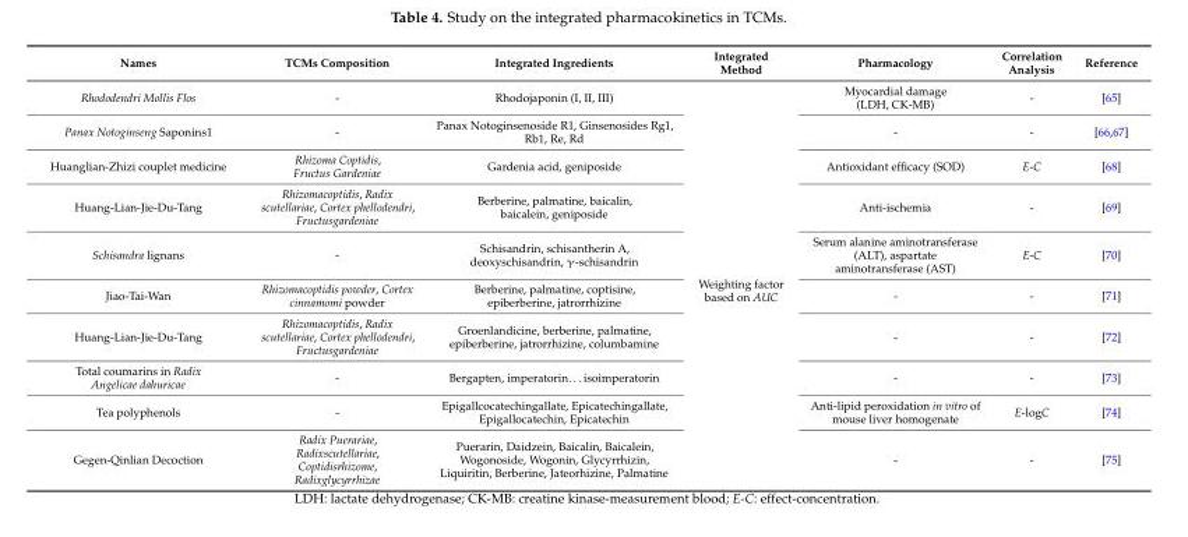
<table><thead><tr><td>Names</td><td>TCMs Composition</td><td>Integrated Ingredients</td><td>Integrated Method</td><td>Pharmacology</td><td>Correlation Analysis</td><td>Reference</td></tr></thead><tbody><tr><td>Rhododendri Mollis Flos</td><td>-</td><td>Rhodojaponin (I, II, III)</td><td rowspan="10">Weighting factor based on AUC</td><td>Myocardial damage (LDH, CK-MB)</td><td>-</td><td>[65]</td></tr><tr><td>Panax Notoginseng Saponins1</td><td>-</td><td>Panax Notoginsenoside R1, Ginsenosides Rg1, Rb1, Re, Rd</td><td>-</td><td>-</td><td>[66,67]</td></tr><tr><td>Huanglian-Zhizi couplet medicine</td><td>Rhizoma Coptidis, Fructus Gardeniae</td><td>Gardenia acid, geniposide</td><td>Antioxidant efficacy (SOD)</td><td>E-C</td><td>[68]</td></tr><tr><td>Huang-Lian-Jie-Du-Tang</td><td>Rhizomacoptidis, Radix scutellariae, Cortex phellodendri, Fructusgardeniae</td><td>Berberine, palmatine, baicalin, baicalein, geniposide</td><td>Anti-ischemia</td><td>-</td><td>[69]</td></tr><tr><td>Schisandra lignans</td><td>-</td><td>Schisandrin, schisantherin A, deoxyschisandrin, γ-schisandrin</td><td>Serum alanine aminotransferase (ALT), aspartate aminotransferase (AST)</td><td>E-C</td><td>[70]</td></tr><tr><td>Jiao-Tai-Wan</td><td>Rhizomacoptidis powder, Cortex cinnamomi powder</td><td>Berberine, palmatine, coptisine, epiberberine, jatrorrhizine</td><td>-</td><td>-</td><td>[71]</td></tr><tr><td>Huang-Lian-Jie-Du-Tang</td><td>Rhizomacoptidis, Radix scutellariae, Cortex phellodendri, Fructusgardeniae</td><td>Groenlandicine, berberine, palmatine, epiberberine, jatrorrhizine, columbamine</td><td>-</td><td>-</td><td>[72]</td></tr><tr><td>Total coumarins in Radix Angelicae dahuricae</td><td>-</td><td>Bergapten, imperatorin. . . isoimperatorin</td><td>-</td><td>-</td><td>[73]</td></tr><tr><td>Tea polyphenols</td><td>-</td><td>Epigallcocatechingallate, Epicatechingallate, Epigallocatechin, Epicatechin</td><td>Anti-lipid peroxidation in vitro of mouse liver homogenate</td><td>E-logC</td><td>[74]</td></tr><tr><td>Gegen-Qinlian Decoction</td><td>Radix Puerariae, Radixscutellariae, Coptidisrhizome, Radixglycyrrhizae</td><td>Puerarin, Daidzein, Baicalin, Baicalein, Wogonoside, Wogonin, Glycyrrhizin, Liquiritin, Berberine, Jateorhizine, Palmatine</td><td>-</td><td>-</td><td>[75]</td></tr></tbody></table>